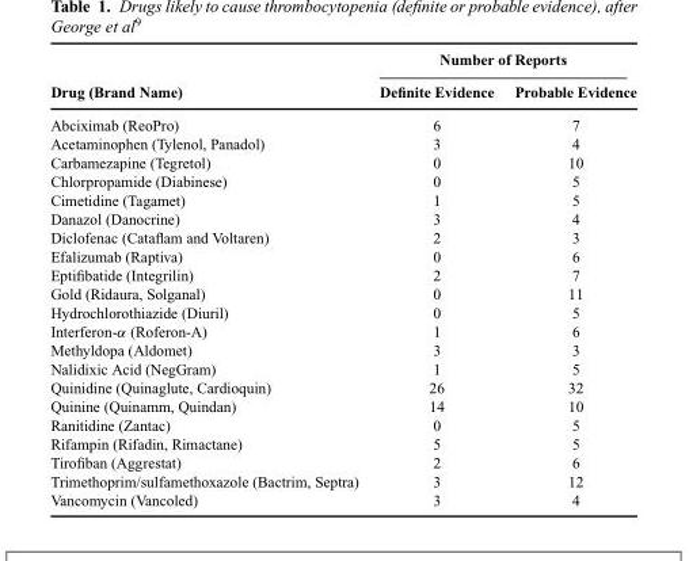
<table><thead><tr><td rowspan="2">Drug (Brand Name)</td><td colspan="2">Number of Reports</td></tr><tr><td>Definite Evidence</td><td>Probable Evidence</td></tr></thead><tbody><tr><td>Abciximab (ReoPro)</td><td>6</td><td>7</td></tr><tr><td>Acetaminophen (Tylenol, Panadol)</td><td>3</td><td>4</td></tr><tr><td>Carbamezapine (Tegretol)</td><td>0</td><td>10</td></tr><tr><td>Chlorpropamide (Diabinese)</td><td>0</td><td>5</td></tr><tr><td>Cimetidine (Tagamet)</td><td>1</td><td>5</td></tr><tr><td>Danazol (Danocrine)</td><td>3</td><td>4</td></tr><tr><td>Diclofenac (Cataflam and Voltaren)</td><td>2</td><td>3</td></tr><tr><td>Efalizumab (Raptiva)</td><td>0</td><td>6</td></tr><tr><td>Eptifibatide (Integrilin)</td><td>2</td><td>7</td></tr><tr><td>Gold (Ridaura, Solganal)</td><td>0</td><td>11</td></tr><tr><td>Hydrochlorothiazide (Diuril)</td><td>0</td><td>5</td></tr><tr><td>Interferon-α (Roferon-A)</td><td>1</td><td>6</td></tr><tr><td>Methyldopa (Aldomet)</td><td>3</td><td>3</td></tr><tr><td>Nalidixic Acid (NegGram)</td><td>1</td><td>5</td></tr><tr><td>Quinidine (Quinaglute, Cardioquin)</td><td>26</td><td>32</td></tr><tr><td>Quinine (Quinamm, Quindan)</td><td>14</td><td>10</td></tr><tr><td>Ranitidine (Zantac)</td><td>0</td><td>5</td></tr><tr><td>Rifampin (Rifadin, Rimactane)</td><td>5</td><td>5</td></tr><tr><td>Tirofiban (Aggrestat)</td><td>2</td><td>6</td></tr><tr><td>Trimethoprim/sulfamethoxazole (Bactrim, Septra)</td><td>3</td><td>12</td></tr><tr><td>Vancomycin (Vancoled)</td><td>3</td><td>4</td></tr></tbody></table>